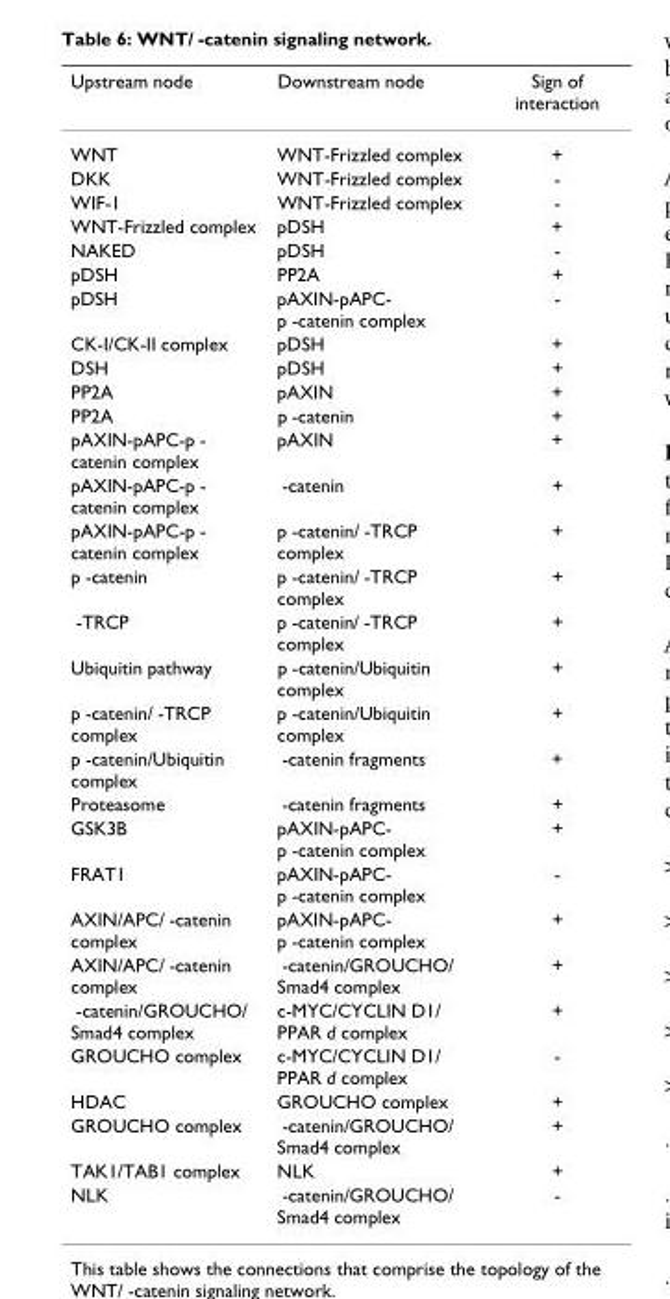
<table><thead><tr><td>Upstream node</td><td>Downstream node</td><td>Sign of interaction</td></tr></thead><tbody><tr><td>WNT</td><td>WNT-Frizzled complex</td><td>+</td></tr><tr><td>DKK</td><td>WNT-Frizzled complex</td><td>-</td></tr><tr><td>WIF-1</td><td>WNT-Frizzled complex</td><td>-</td></tr><tr><td>WNT-Frizzled complex</td><td>pDSH</td><td>+</td></tr><tr><td>NAKED</td><td>pDSH</td><td>-</td></tr><tr><td>pDSH</td><td>PP2A</td><td>+</td></tr><tr><td>pDSH</td><td>pAXIN-pAPC- p -catenin complex</td><td>-</td></tr><tr><td>CK-I/CK-II complex</td><td>pDSH</td><td>+</td></tr><tr><td>DSH</td><td>pDSH</td><td>+</td></tr><tr><td>PP2A</td><td>pAXIN</td><td>+</td></tr><tr><td>PP2A</td><td>p -catenin</td><td>+</td></tr><tr><td>pAXIN-pAPC-p - catenin complex</td><td>pAXIN</td><td>+</td></tr><tr><td>pAXIN-pAPC-p - catenin complex</td><td>-catenin</td><td>+</td></tr><tr><td>pAXIN-pAPC-p - catenin complex</td><td>p -catenin/ -TRCP complex</td><td>+</td></tr><tr><td>p -catenin</td><td>p -catenin/ -TRCP complex</td><td>+</td></tr><tr><td>-TRCP</td><td>p -catenin/ -TRCP complex</td><td>+</td></tr><tr><td>Ubiquitin pathway</td><td>p -catenin/Ubiquitin complex</td><td>+</td></tr><tr><td>p -catenin/ -TRCP complex</td><td>p -catenin/Ubiquitin complex</td><td>+</td></tr><tr><td>p -catenin/Ubiquitin complex</td><td>-catenin fragments</td><td>+</td></tr><tr><td>Proteasome</td><td>-catenin fragments</td><td>+</td></tr><tr><td>GSK3B</td><td>pAXIN-pAPC- p -catenin complex</td><td>+</td></tr><tr><td>FRAT1</td><td>pAXIN-pAPC- p -catenin complex</td><td>-</td></tr><tr><td>AXIN/APC/ -catenin complex</td><td>pAXIN-pAPC- p -catenin complex</td><td>+</td></tr><tr><td>AXIN/APC/ -catenin complex</td><td>-catenin/GROUCHO/ Smad4 complex</td><td>+</td></tr><tr><td>-catenin/GROUCHO/ Smad4 complex</td><td>c-MYC/CYCLIN D1/ PPAR d complex</td><td>+</td></tr><tr><td>GROUCHO complex</td><td>c-MYC/CYCLIN D1/ PPAR d complex</td><td>-</td></tr><tr><td>HDAC</td><td>GROUCHO complex</td><td>+</td></tr><tr><td>GROUCHO complex</td><td>-catenin/GROUCHO/ Smad4 complex</td><td>+</td></tr><tr><td>TAK1/TAB1 complex</td><td>NLK</td><td>+</td></tr><tr><td>NLK</td><td>-catenin/GROUCHO/ Smad4 complex</td><td>-</td></tr></tbody></table>